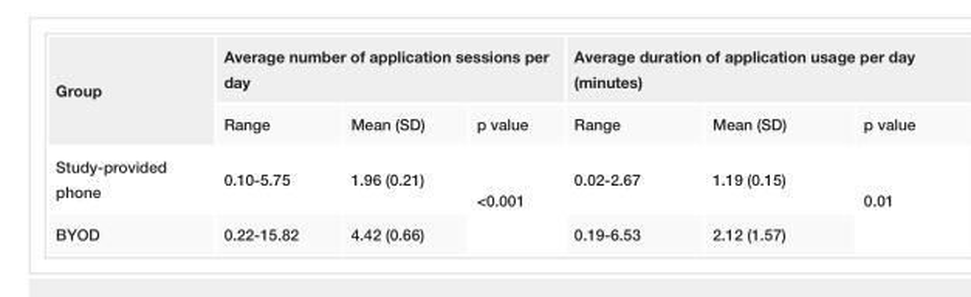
<table><tbody><tr><td rowspan="2">Group</td><td colspan="3">Average number of application sessions per day</td><td colspan="3">Average duration of application usage per day (minutes)</td></tr><tr><td>Range</td><td>Mean (SD)</td><td>p value</td><td>Range</td><td>Mean (SD)</td><td>p value</td></tr><tr><td>Study-provided phone</td><td>0.10-5.75</td><td>1.96 (0.21)</td><td rowspan="2">&lt;0.001</td><td>0.02-2.67</td><td>1.19 (0.15)</td><td rowspan="2">0.01</td></tr><tr><td>BYOD</td><td>0.22-15.82</td><td>4.42 (0.66)</td><td>0.19-6.53</td><td>2.12 (1.57)</td></tr></tbody></table>